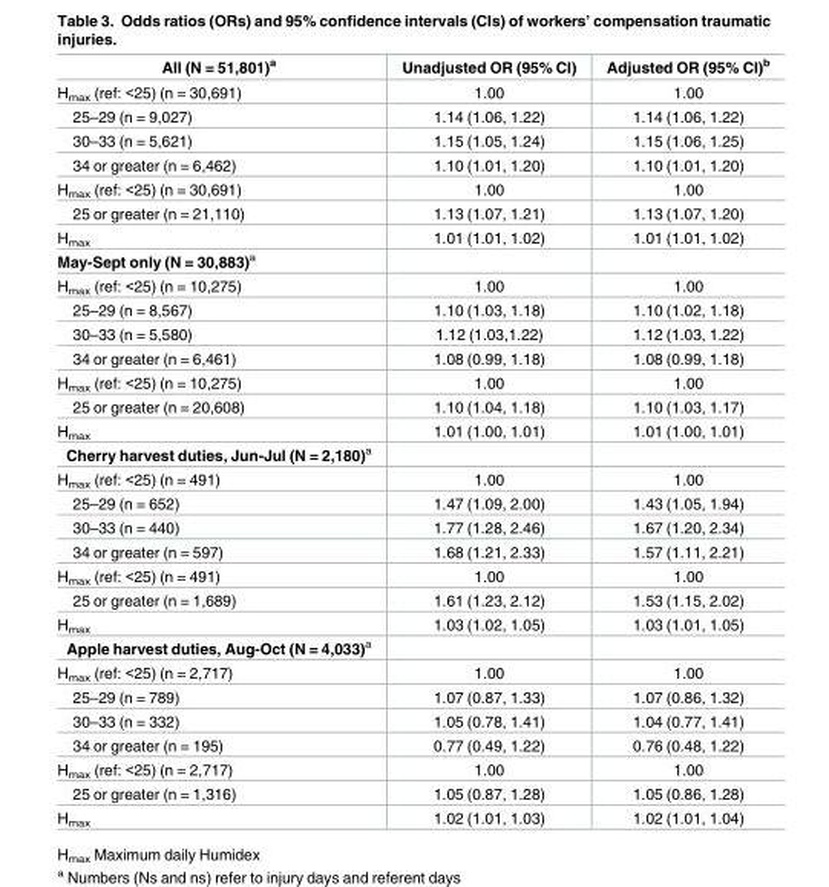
<table><thead><tr><td>All (N = 51,801)<sup>a</sup></td><td>Unadjusted OR (95% CI)</td><td>Adjusted OR (95% CI)<sup>b</sup></td></tr></thead><tbody><tr><td>H<sub>max</sub> (ref: &lt;25) (n = 30,691)</td><td>1.00</td><td>1.00</td></tr><tr><td>25–29 (n = 9,027)</td><td>1.14 (1.06, 1.22)</td><td>1.14 (1.06, 1.22)</td></tr><tr><td>30–33 (n = 5,621)</td><td>1.15 (1.05, 1.24)</td><td>1.15 (1.06, 1.25)</td></tr><tr><td>34 or greater (n = 6,462)</td><td>1.10 (1.01, 1.20)</td><td>1.10 (1.01, 1.20)</td></tr><tr><td>H<sub>max</sub> (ref: &lt;25) (n = 30,691)</td><td>1.00</td><td>1.00</td></tr><tr><td>25 or greater (n = 21,110)</td><td>1.13 (1.07, 1.21)</td><td>1.13 (1.07, 1.20)</td></tr><tr><td>H<sub>max</sub></td><td>1.01 (1.01, 1.02)</td><td>1.01 (1.01, 1.02)</td></tr><tr><td colspan="3">May-Sept only (N = 30,883)<sup>a</sup></td></tr><tr><td>H<sub>max</sub> (ref: &lt;25) (n = 10,275)</td><td>1.00</td><td>1.00</td></tr><tr><td>25–29 (n = 8,567)</td><td>1.10 (1.03, 1.18)</td><td>1.10 (1.02, 1.18)</td></tr><tr><td>30–33 (n = 5,580)</td><td>1.12 (1.03,1.22)</td><td>1.12 (1.03, 1.22)</td></tr><tr><td>34 or greater (n = 6,461)</td><td>1.08 (0.99, 1.18)</td><td>1.08 (0.99, 1.18)</td></tr><tr><td>H<sub>max</sub> (ref: &lt;25) (n = 10,275)</td><td>1.00</td><td>1.00</td></tr><tr><td>25 or greater (n = 20,608)</td><td>1.10 (1.04, 1.18)</td><td>1.10 (1.03, 1.17)</td></tr><tr><td>H<sub>max</sub></td><td>1.01 (1.00, 1.01)</td><td>1.01 (1.00, 1.01)</td></tr><tr><td colspan="3">Cherry harvest duties, Jun-Jul (N = 2,180)<sup>a</sup></td></tr><tr><td>H<sub>max</sub> (ref: &lt;25) (n = 491)</td><td>1.00</td><td>1.00</td></tr><tr><td>25–29 (n = 652)</td><td>1.47 (1.09, 2.00)</td><td>1.43 (1.05, 1.94)</td></tr><tr><td>30–33 (n = 440)</td><td>1.77 (1.28, 2.46)</td><td>1.67 (1.20, 2.34)</td></tr><tr><td>34 or greater (n = 597)</td><td>1.68 (1.21, 2.33)</td><td>1.57 (1.11, 2.21)</td></tr><tr><td>H<sub>max</sub> (ref: &lt;25) (n = 491)</td><td>1.00</td><td>1.00</td></tr><tr><td>25 or greater (n = 1,689)</td><td>1.61 (1.23, 2.12)</td><td>1.53 (1.15, 2.02)</td></tr><tr><td>H<sub>max</sub></td><td>1.03 (1.02, 1.05)</td><td>1.03 (1.01, 1.05)</td></tr><tr><td colspan="3">Apple harvest duties, Aug-Oct (N = 4,033)<sup>a</sup></td></tr><tr><td>H<sub>max</sub> (ref: &lt;25) (n = 2,717)</td><td>1.00</td><td>1.00</td></tr><tr><td>25–29 (n = 789)</td><td>1.07 (0.87, 1.33)</td><td>1.07 (0.86, 1.32)</td></tr><tr><td>30–33 (n = 332)</td><td>1.05 (0.78, 1.41)</td><td>1.04 (0.77, 1.41)</td></tr><tr><td>34 or greater (n = 195)</td><td>0.77 (0.49, 1.22)</td><td>0.76 (0.48, 1.22)</td></tr><tr><td>H<sub>max</sub> (ref: &lt;25) (n = 2,717)</td><td>1.00</td><td>1.00</td></tr><tr><td>25 or greater (n = 1,316)</td><td>1.05 (0.87, 1.28)</td><td>1.05 (0.86, 1.28)</td></tr><tr><td>H<sub>max</sub></td><td>1.02 (1.01, 1.03)</td><td>1.02 (1.01, 1.04)</td></tr></tbody></table>